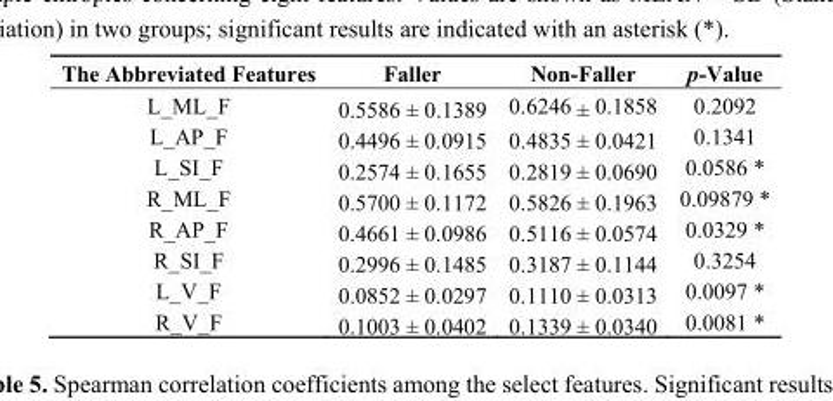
<table><thead><tr><td>The Abbreviated Features</td><td>Faller</td><td>Non-Faller</td><td>p-Value</td></tr></thead><tbody><tr><td>L_ML_F</td><td>0.5586 ± 0.1389</td><td>0.6246 ± 0.1858</td><td>0.2092</td></tr><tr><td>L_AP_F</td><td>0.4496 ± 0.0915</td><td>0.4835 ± 0.0421</td><td>0.1341</td></tr><tr><td>L_SI_F</td><td>0.2574 ± 0.1655</td><td>0.2819 ± 0.0690</td><td>0.0586 *</td></tr><tr><td>R_ML_F</td><td>0.5700 ± 0.1172</td><td>0.5826 ± 0.1963</td><td>0.09879 *</td></tr><tr><td>R_AP_F</td><td>0.4661 ± 0.0986</td><td>0.5116 ± 0.0574</td><td>0.0329 *</td></tr><tr><td>R_SI_F</td><td>0.2996 ± 0.1485</td><td>0.3187 ± 0.1144</td><td>0.3254</td></tr><tr><td>L_V_F</td><td>0.0852 ± 0.0297</td><td>0.1110 ± 0.0313</td><td>0.0097 *</td></tr><tr><td>R_V_F</td><td>0.1003 ± 0.0402</td><td>0.1339 ± 0.0340</td><td>0.0081 *</td></tr></tbody></table>